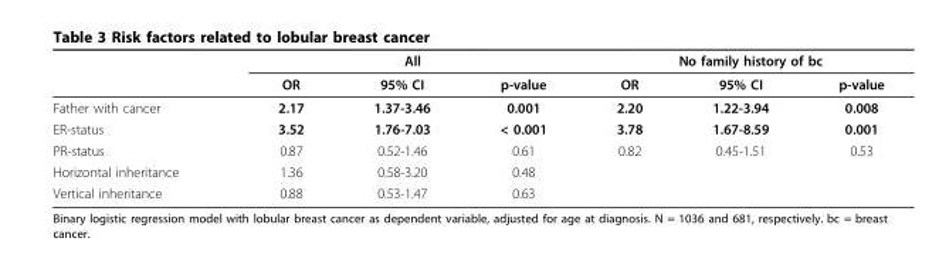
<table><thead><tr><td rowspan="2"></td><td colspan="3">All</td><td colspan="3">No family history of bc</td></tr><tr><td>OR</td><td>95% CI</td><td>p-value</td><td>OR</td><td>95% CI</td><td>p-value</td></tr></thead><tbody><tr><td>Father with cancer</td><td>2.17</td><td>1.37-3.46</td><td>0.001</td><td>2.20</td><td>1.22-3.94</td><td>0.008</td></tr><tr><td>ER-status</td><td>3.52</td><td>1.76-7.03</td><td>&lt; 0.001</td><td>3.78</td><td>1.67-8.59</td><td>0.001</td></tr><tr><td>PR-status</td><td>0.87</td><td>0.52-1.46</td><td>0.61</td><td>0.82</td><td>0.45-1.51</td><td>0.53</td></tr><tr><td>Horizontal inheritance</td><td>1.36</td><td>0.58-3.20</td><td>0.48</td><td></td><td></td><td></td></tr><tr><td>Vertical inheritance</td><td>0.88</td><td>0.53-1.47</td><td>0.63</td><td></td><td></td><td></td></tr></tbody></table>